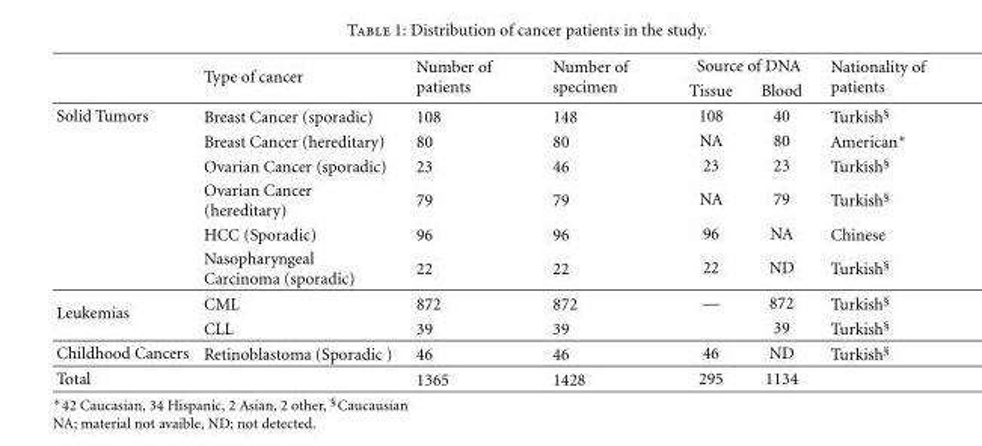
<table><thead><tr><td rowspan="2"></td><td rowspan="2">Type of cancer</td><td rowspan="2">Number of patients</td><td rowspan="2">Number of specimen</td><td colspan="2">Source of DNA</td><td rowspan="2">Nationality of patients</td></tr><tr><td>Tissue</td><td>Blood</td></tr></thead><tbody><tr><td rowspan="6">Solid Tumors</td><td>Breast Cancer (sporadic)</td><td>108</td><td>148</td><td>108</td><td>40</td><td>Turkish<sup>§</sup></td></tr><tr><td>Breast Cancer (hereditary)</td><td>80</td><td>80</td><td>NA</td><td>80</td><td>American∗</td></tr><tr><td>Ovarian Cancer (sporadic)</td><td>23</td><td>46</td><td>23</td><td>23</td><td>Turkish<sup>§</sup></td></tr><tr><td>Ovarian Cancer (hereditary)</td><td>79</td><td>79</td><td>NA</td><td>79</td><td>Turkish<sup>§</sup></td></tr><tr><td>HCC (Sporadic)</td><td>96</td><td>96</td><td>96</td><td>NA</td><td>Chinese</td></tr><tr><td>Nasopharyngeal Carcinoma (sporadic)</td><td>22</td><td>22</td><td>22</td><td>ND</td><td>Turkish<sup>§</sup></td></tr><tr><td rowspan="2">Leukemias</td><td>CML</td><td>872</td><td>872</td><td>—</td><td>872</td><td>Turkish<sup>§</sup></td></tr><tr><td>CLL</td><td>39</td><td>39</td><td></td><td>39</td><td>Turkish<sup>§</sup></td></tr><tr><td>Childhood Cancers</td><td>Retinoblastoma (Sporadic )</td><td>46</td><td>46</td><td>46</td><td>ND</td><td>Turkish<sup>§</sup></td></tr><tr><td>Total</td><td></td><td>1365</td><td>1428</td><td>295</td><td>1134</td><td></td></tr></tbody></table>